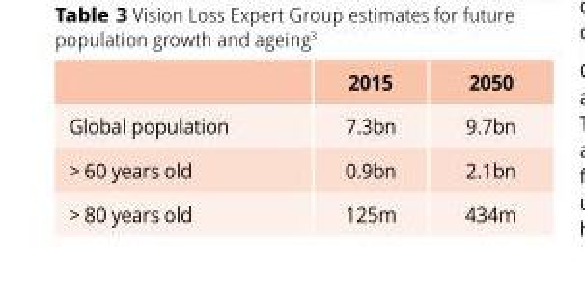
<table><thead><tr><td></td><td>2015</td><td>2050</td></tr></thead><tbody><tr><td>Global population</td><td>7.3bn</td><td>9.7bn</td></tr><tr><td>&gt; 60 years old</td><td>0.9bn</td><td>2.1bn</td></tr><tr><td>&gt; 80 years old</td><td>125m</td><td>434m</td></tr></tbody></table>